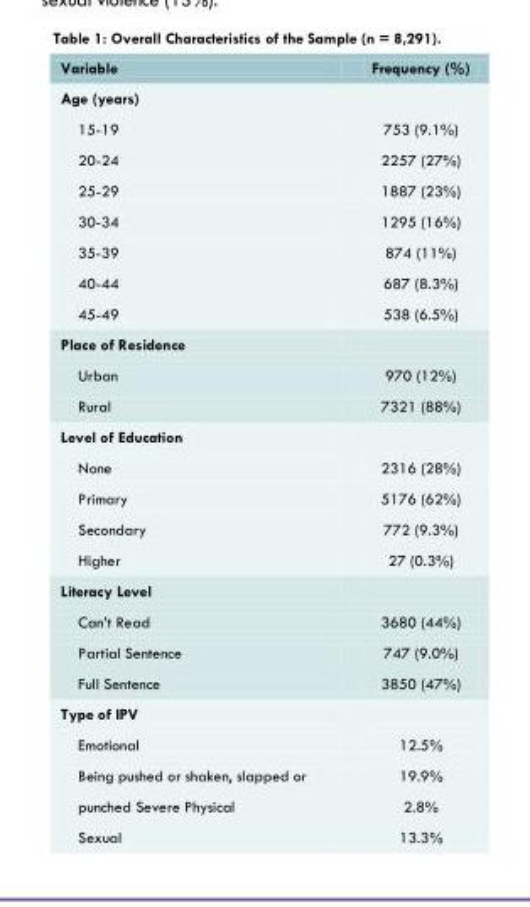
<table><thead><tr><td>Variable</td><td>Frequency (%)</td></tr></thead><tbody><tr><td colspan="2">Age (years)</td></tr><tr><td>15-19</td><td>753 (9.1%)</td></tr><tr><td>20-24</td><td>2257 (27%)</td></tr><tr><td>25-29</td><td>1887 (23%)</td></tr><tr><td>30-34</td><td>1295 (16%)</td></tr><tr><td>35-39</td><td>874 (11%)</td></tr><tr><td>40-44</td><td>687 (8.3%)</td></tr><tr><td>45-49</td><td>538 (6.5%)</td></tr><tr><td colspan="2">Place of Residence</td></tr><tr><td>Urban</td><td>970 (12%)</td></tr><tr><td>Rural</td><td>7321 (88%)</td></tr><tr><td colspan="2">Level of Education</td></tr><tr><td>None</td><td>2316 (28%)</td></tr><tr><td>Primary</td><td>5176 (62%)</td></tr><tr><td>Secondary</td><td>772 (9.3%)</td></tr><tr><td>Higher</td><td>27 (0.3%)</td></tr><tr><td colspan="2">Literacy Level</td></tr><tr><td>Can’t Read</td><td>3680 (44%)</td></tr><tr><td>Partial Sentence</td><td>747 (9.0%)</td></tr><tr><td>Full Sentence</td><td>3850 (47%)</td></tr><tr><td colspan="2">Type of IPV</td></tr><tr><td>Emotional</td><td>12.5%</td></tr><tr><td>Being pushed or shaken, slapped or</td><td>19.9%</td></tr><tr><td>punched Severe Physical</td><td>2.8%</td></tr><tr><td>Sexual</td><td>13.3%</td></tr></tbody></table>